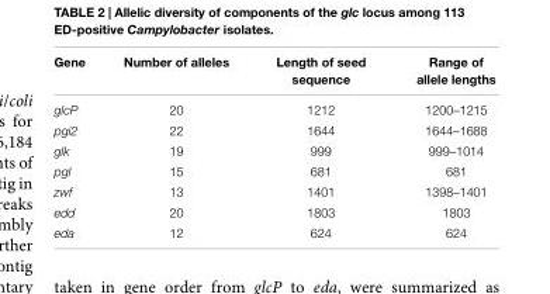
<table><thead><tr><td>Gene</td><td>Number of alleles</td><td>Length of seed sequence</td><td>Range of allele lengths</td></tr></thead><tbody><tr><td>glcP</td><td>20</td><td>1212</td><td>1200–1215</td></tr><tr><td>pgi2</td><td>22</td><td>1644</td><td>1644–1688</td></tr><tr><td>glk</td><td>19</td><td>999</td><td>999–1014</td></tr><tr><td>pgl</td><td>15</td><td>681</td><td>681</td></tr><tr><td>zwf</td><td>13</td><td>1401</td><td>1398–1401</td></tr><tr><td>edd</td><td>20</td><td>1803</td><td>1803</td></tr><tr><td>eda</td><td>12</td><td>624</td><td>624</td></tr></tbody></table>